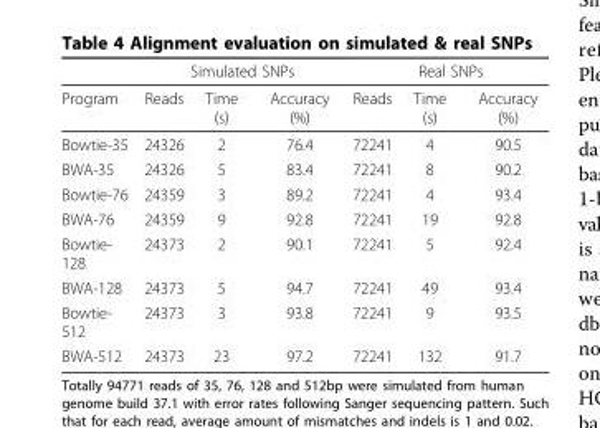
<table><thead><tr><td rowspan="2">Program</td><td colspan="3">Simulated SNPs</td><td colspan="3">Real SNPs</td></tr><tr><td>Reads</td><td>Time (s)</td><td>Accuracy (%)</td><td>Reads</td><td>Time (s)</td><td>Accuracy (%)</td></tr></thead><tbody><tr><td>Bowtie-35</td><td>24326</td><td>2</td><td>76.4</td><td>72241</td><td>4</td><td>90.5</td></tr><tr><td>BWA-35</td><td>24326</td><td>5</td><td>83.4</td><td>72241</td><td>8</td><td>90.2</td></tr><tr><td>Bowtie-76</td><td>24359</td><td>3</td><td>89.2</td><td>72241</td><td>4</td><td>93.4</td></tr><tr><td>BWA-76</td><td>24359</td><td>9</td><td>92.8</td><td>72241</td><td>19</td><td>92.8</td></tr><tr><td>Bowtie- 128</td><td>24373</td><td>2</td><td>90.1</td><td>72241</td><td>5</td><td>92.4</td></tr><tr><td>BWA-128</td><td>24373</td><td>5</td><td>94.7</td><td>72241</td><td>49</td><td>93.4</td></tr><tr><td>Bowtie- 512</td><td>24373</td><td>3</td><td>93.8</td><td>72241</td><td>9</td><td>93.5</td></tr><tr><td>BWA-512</td><td>24373</td><td>23</td><td>97.2</td><td>72241</td><td>132</td><td>91.7</td></tr></tbody></table>